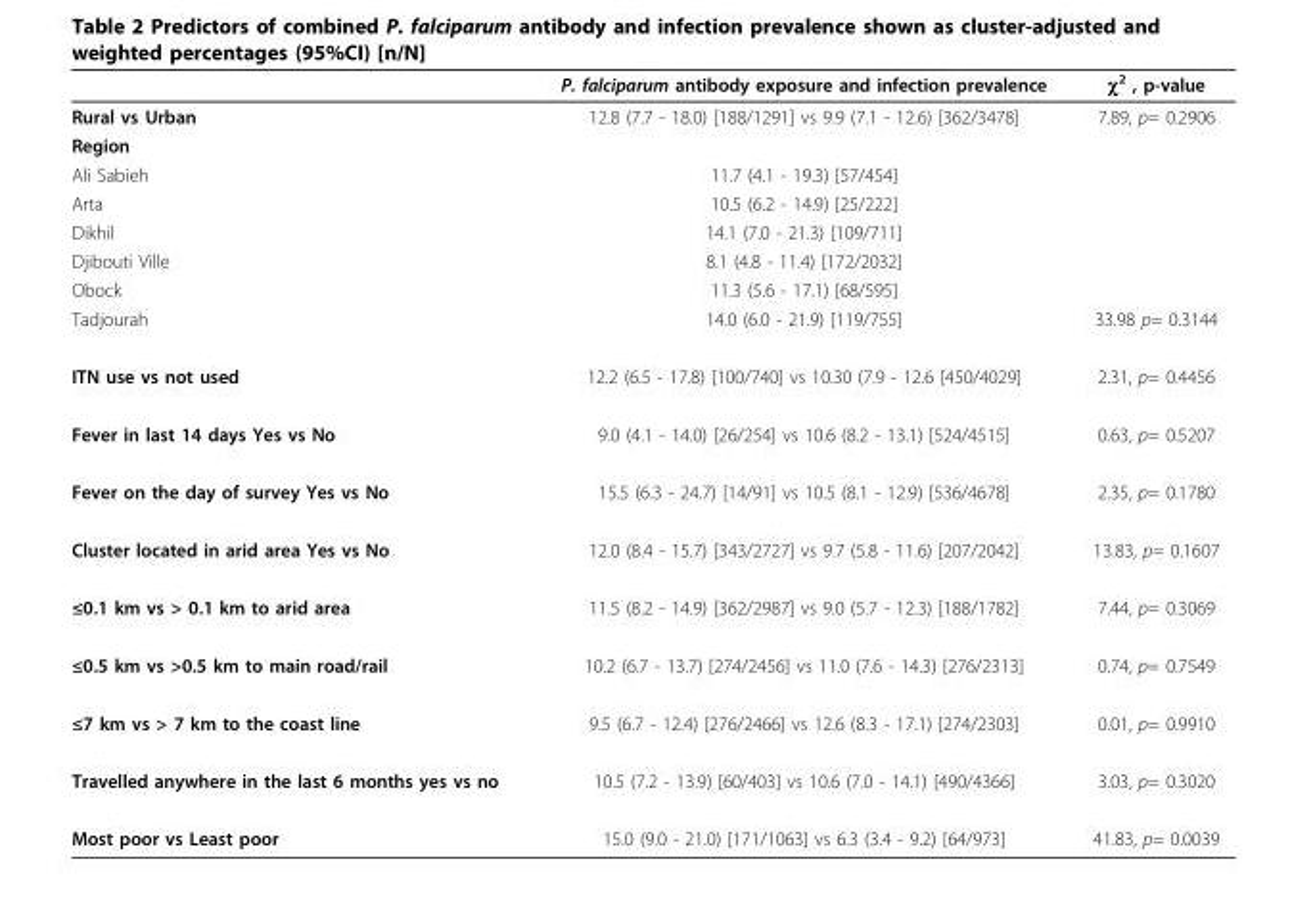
<table><thead><tr><td></td><td>P. falciparum antibody exposure and infection prevalence</td><td>χ<sup>2</sup> , p-value</td></tr></thead><tbody><tr><td>Rural vs Urban</td><td>12.8 (7.7 - 18.0) [188/1291] vs 9.9 (7.1 - 12.6) [362/3478]</td><td>7.89, p= 0.2906</td></tr><tr><td colspan="3">Region</td></tr><tr><td>Ali Sabieh</td><td>11.7 (4.1 - 19.3) [57/454]</td><td></td></tr><tr><td>Arta</td><td>10.5 (6.2 - 14.9) [25/222]</td><td></td></tr><tr><td>Dikhil</td><td>14.1 (7.0 - 21.3) [109/711]</td><td></td></tr><tr><td>Djibouti Ville</td><td>8.1 (4.8 - 11.4) [172/2032]</td><td></td></tr><tr><td>Obock</td><td>11.3 (5.6 - 17.1) [68/595]</td><td></td></tr><tr><td>Tadjourah</td><td>14.0 (6.0 - 21.9) [119/755]</td><td>33.98 p= 0.3144</td></tr><tr><td>ITN use vs not used</td><td>12.2 (6.5 - 17.8) [100/740] vs 10.30 (7.9 - 12.6 [450/4029]</td><td>2.31, p= 0.4456</td></tr><tr><td>Fever in last 14 days Yes vs No</td><td>9.0 (4.1 - 14.0) [26/254] vs 10.6 (8.2 - 13.1) [524/4515]</td><td>0.63, p= 0.5207</td></tr><tr><td>Fever on the day of survey Yes vs No</td><td>15.5 (6.3 - 24.7) [14/91] vs 10.5 (8.1 - 12.9) [536/4678]</td><td>2.35, p= 0.1780</td></tr><tr><td>Cluster located in arid area Yes vs No</td><td>12.0 (8.4 - 15.7) [343/2727] vs 9.7 (5.8 - 11.6) [207/2042]</td><td>13.83, p= 0.1607</td></tr><tr><td>≤0.1 km vs &gt; 0.1 km to arid area</td><td>11.5 (8.2 - 14.9) [362/2987] vs 9.0 (5.7 - 12.3) [188/1782]</td><td>7.44, p= 0.3069</td></tr><tr><td>≤0.5 km vs &gt;0.5 km to main road/rail</td><td>10.2 (6.7 - 13.7) [274/2456] vs 11.0 (7.6 - 14.3) [276/2313]</td><td>0.74, p= 0.7549</td></tr><tr><td>≤7 km vs &gt; 7 km to the coast line</td><td>9.5 (6.7 - 12.4) [276/2466] vs 12.6 (8.3 - 17.1) [274/2303]</td><td>0.01, p= 0.9910</td></tr><tr><td>Travelled anywhere in the last 6 months yes vs no</td><td>10.5 (7.2 - 13.9) [60/403] vs 10.6 (7.0 - 14.1) [490/4366]</td><td>3.03, p= 0.3020</td></tr><tr><td>Most poor vs Least poor</td><td>15.0 (9.0 - 21.0) [171/1063] vs 6.3 (3.4 - 9.2) [64/973]</td><td>41.83, p= 0.0039</td></tr></tbody></table>